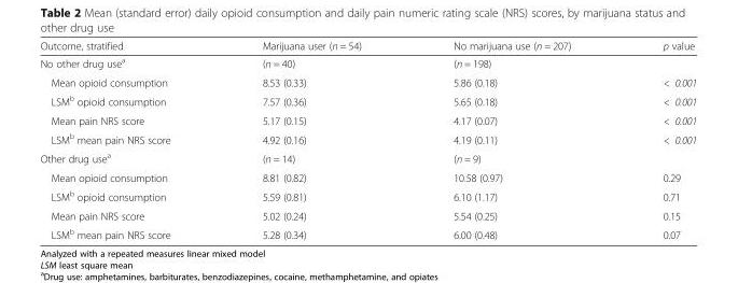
<table><thead><tr><td>Outcome, stratified</td><td>Marijuana user (n = 54)</td><td>No marijuana use (n = 207)</td><td>p value</td></tr></thead><tbody><tr><td>No other drug use<sup>a</sup></td><td>(n = 40)</td><td>(n = 198)</td><td></td></tr><tr><td>Mean opioid consumption</td><td>8.53 (0.33)</td><td>5.86 (0.18)</td><td>&lt; 0.001</td></tr><tr><td>LSM<sup>b</sup> opioid consumption</td><td>7.57 (0.36)</td><td>5.65 (0.18)</td><td>&lt; 0.001</td></tr><tr><td>Mean pain NRS score</td><td>5.17 (0.15)</td><td>4.17 (0.07)</td><td>&lt; 0.001</td></tr><tr><td>LSM<sup>b</sup> mean pain NRS score</td><td>4.92 (0.16)</td><td>4.19 (0.11)</td><td>&lt; 0.001</td></tr><tr><td>Other drug use<sup>a</sup></td><td>(n = 14)</td><td>(n = 9)</td><td></td></tr><tr><td>Mean opioid consumption</td><td>8.81 (0.82)</td><td>10.58 (0.97)</td><td>0.29</td></tr><tr><td>LSM<sup>b</sup> opioid consumption</td><td>5.59 (0.81)</td><td>6.10 (1.17)</td><td>0.71</td></tr><tr><td>Mean pain NRS score</td><td>5.02 (0.24)</td><td>5.54 (0.25)</td><td>0.15</td></tr><tr><td>LSM<sup>b</sup> mean pain NRS score</td><td>5.28 (0.34)</td><td>6.00 (0.48)</td><td>0.07</td></tr></tbody></table>